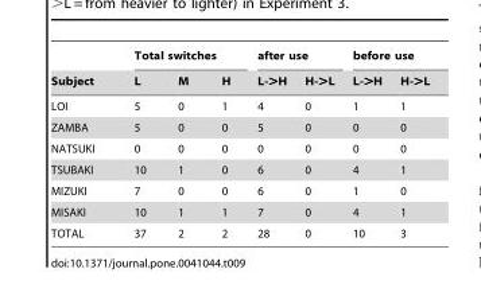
<table><thead><tr><td rowspan="2">Subject</td><td colspan="3">Total switches</td><td colspan="2">after use</td><td colspan="2">before use</td></tr><tr><td>L</td><td>M</td><td>H</td><td>L-&gt;H</td><td>H-&gt;L</td><td>L-&gt;H</td><td>H-&gt;L</td></tr></thead><tbody><tr><td>LOI</td><td>5</td><td>0</td><td>1</td><td>4</td><td>0</td><td>1</td><td>1</td></tr><tr><td>ZAMBA</td><td>5</td><td>0</td><td>0</td><td>5</td><td>0</td><td>0</td><td>0</td></tr><tr><td>NATSUKI</td><td>0</td><td>0</td><td>0</td><td>0</td><td>0</td><td>0</td><td>0</td></tr><tr><td>TSUBAKI</td><td>10</td><td>1</td><td>0</td><td>6</td><td>0</td><td>4</td><td>1</td></tr><tr><td>MIZUKI</td><td>7</td><td>0</td><td>0</td><td>6</td><td>0</td><td>1</td><td>0</td></tr><tr><td>MISAKI</td><td>10</td><td>1</td><td>1</td><td>7</td><td>0</td><td>4</td><td>1</td></tr><tr><td>TOTAL</td><td>37</td><td>2</td><td>2</td><td>28</td><td>0</td><td>10</td><td>3</td></tr></tbody></table>